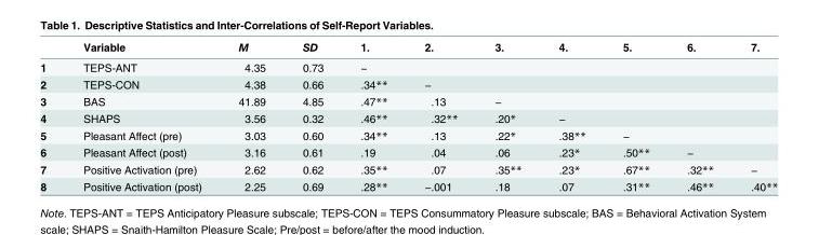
<table><thead><tr><td></td><td>Variable</td><td>M</td><td>SD</td><td>1.</td><td>2.</td><td>3.</td><td>4.</td><td>5.</td><td>6.</td><td>7.</td></tr></thead><tbody><tr><td>1</td><td>TEPS-ANT</td><td>4.35</td><td>0.73</td><td>−</td><td></td><td></td><td></td><td></td><td></td><td></td></tr><tr><td>2</td><td>TEPS-CON</td><td>4.38</td><td>0.66</td><td>.34**</td><td>−</td><td></td><td></td><td></td><td></td><td></td></tr><tr><td>3</td><td>BAS</td><td>41.89</td><td>4.85</td><td>.47**</td><td>.13</td><td>−</td><td></td><td></td><td></td><td></td></tr><tr><td>4</td><td>SHAPS</td><td>3.56</td><td>0.32</td><td>.46**</td><td>.32**</td><td>.20*</td><td>−</td><td></td><td></td><td></td></tr><tr><td>5</td><td>Pleasant Affect (pre)</td><td>3.03</td><td>0.60</td><td>.34**</td><td>.13</td><td>.22*</td><td>.38**</td><td>−</td><td></td><td></td></tr><tr><td>6</td><td>Pleasant Affect (post)</td><td>3.16</td><td>0.61</td><td>.19</td><td>.04</td><td>.06</td><td>.23*</td><td>.50**</td><td>−</td><td></td></tr><tr><td>7</td><td>Positive Activation (pre)</td><td>2.62</td><td>0.62</td><td>.35**</td><td>.07</td><td>.35**</td><td>.23*</td><td>.67**</td><td>.32**</td><td>−</td></tr><tr><td>8</td><td>Positive Activation (post)</td><td>2.25</td><td>0.69</td><td>.28**</td><td>−.001</td><td>.18</td><td>.07</td><td>.31**</td><td>.46**</td><td>.40**</td></tr></tbody></table>